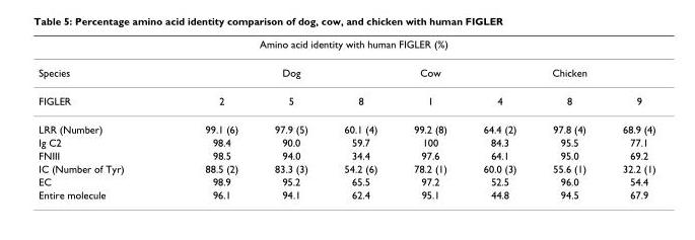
<table><thead><tr><td colspan="8">Amino acid identity with human FIGLER (%)</td></tr><tr><td rowspan="2">Species FIGLER</td><td colspan="3">Dog</td><td rowspan="2">Cow 1</td><td colspan="3">Chicken</td></tr><tr><td>2</td><td>5</td><td>8</td><td>4</td><td>8</td><td>9</td></tr></thead><tbody><tr><td>LRR (Number)</td><td>99.1 (6)</td><td>97.9 (5)</td><td>60.1 (4)</td><td>99.2 (8)</td><td>64.4 (2)</td><td>97.8 (4)</td><td>68.9 (4)</td></tr><tr><td>Ig C2</td><td>98.4</td><td>90.0</td><td>59.7</td><td>100</td><td>84.3</td><td>95.5</td><td>77.1</td></tr><tr><td>FNIII</td><td>98.5</td><td>94.0</td><td>34.4</td><td>97.6</td><td>64.1</td><td>95.0</td><td>69.2</td></tr><tr><td>IC (Number of Tyr)</td><td>88.5 (2)</td><td>83.3 (3)</td><td>54.2 (6)</td><td>78.2 (1)</td><td>60.0 (3)</td><td>55.6 (1)</td><td>32.2 (1)</td></tr><tr><td>EC</td><td>98.9</td><td>95.2</td><td>65.5</td><td>97.2</td><td>52.5</td><td>96.0</td><td>54.4</td></tr><tr><td>Entire molecule</td><td>96.1</td><td>94.1</td><td>62.4</td><td>95.1</td><td>44.8</td><td>94.5</td><td>67.9</td></tr></tbody></table>